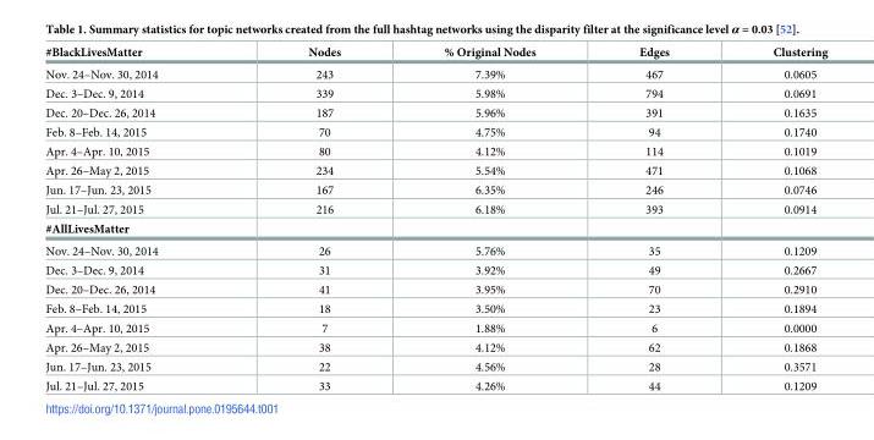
<table><thead><tr><td>#BlackLivesMatter</td><td>Nodes</td><td>% Original Nodes</td><td>Edges</td><td>Clustering</td></tr></thead><tbody><tr><td>Nov. 24–Nov. 30, 2014</td><td>243</td><td>7.39%</td><td>467</td><td>0.0605</td></tr><tr><td>Dec. 3–Dec. 9, 2014</td><td>339</td><td>5.98%</td><td>794</td><td>0.0691</td></tr><tr><td>Dec. 20–Dec. 26, 2014</td><td>187</td><td>5.96%</td><td>391</td><td>0.1635</td></tr><tr><td>Feb. 8–Feb. 14, 2015</td><td>70</td><td>4.75%</td><td>94</td><td>0.1740</td></tr><tr><td>Apr. 4–Apr. 10, 2015</td><td>80</td><td>4.12%</td><td>114</td><td>0.1019</td></tr><tr><td>Apr. 26–May 2, 2015</td><td>234</td><td>5.54%</td><td>471</td><td>0.1068</td></tr><tr><td>Jun. 17–Jun. 23, 2015</td><td>167</td><td>6.35%</td><td>246</td><td>0.0746</td></tr><tr><td>Jul. 21–Jul. 27, 2015</td><td>216</td><td>6.18%</td><td>393</td><td>0.0914</td></tr><tr><td colspan="5">#AllLivesMatter</td></tr><tr><td>Nov. 24–Nov. 30, 2014</td><td>26</td><td>5.76%</td><td>35</td><td>0.1209</td></tr><tr><td>Dec. 3–Dec. 9, 2014</td><td>31</td><td>3.92%</td><td>49</td><td>0.2667</td></tr><tr><td>Dec. 20–Dec. 26, 2014</td><td>41</td><td>3.95%</td><td>70</td><td>0.2910</td></tr><tr><td>Feb. 8–Feb. 14, 2015</td><td>18</td><td>3.50%</td><td>23</td><td>0.1894</td></tr><tr><td>Apr. 4–Apr. 10, 2015</td><td>7</td><td>1.88%</td><td>6</td><td>0.0000</td></tr><tr><td>Apr. 26–May 2, 2015</td><td>38</td><td>4.12%</td><td>62</td><td>0.1868</td></tr><tr><td>Jun. 17–Jun. 23, 2015</td><td>22</td><td>4.56%</td><td>28</td><td>0.3571</td></tr><tr><td>Jul. 21–Jul. 27, 2015</td><td>33</td><td>4.26%</td><td>44</td><td>0.1209</td></tr></tbody></table>